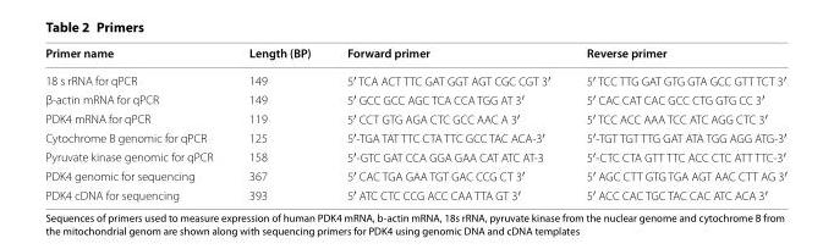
<table><thead><tr><td>Primer name</td><td>Length (BP)</td><td>Forward primer</td><td>Reverse primer</td></tr></thead><tbody><tr><td>18 s rRNA for qPCR</td><td>149</td><td>5′ TCA ACT TTC GAT GGT AGT CGC CGT 3′</td><td>5′ TCC TTG GAT GTG GTA GCC GTT TCT 3′</td></tr><tr><td>β-actin mRNA for qPCR</td><td>149</td><td>5′ GCC GCC AGC TCA CCA TGG AT 3′</td><td>5′ CAC CAT CAC GCC CTG GTG CC 3′</td></tr><tr><td>PDK4 mRNA for qPCR</td><td>119</td><td>5′ CCT GTG AGA CTC GCC AAC A 3′</td><td>5′ TCC ACC AAA TCC ATC AGG CTC 3′</td></tr><tr><td>Cytochrome B genomic for qPCR</td><td>125</td><td>5′-TGA TAT TTC CTA TTC GCC TAC ACA-3′</td><td>5′-TGT TGT TTG GAT ATA TGG AGG ATG-3′</td></tr><tr><td>Pyruvate kinase genomic for qPCR</td><td>158</td><td>5′-GTC GAT CCA GGA GAA CAT ATC AT-3</td><td>5′-CTC CTA GTT TTC ACC CTC ATT TTC-3′</td></tr><tr><td>PDK4 genomic for sequencing</td><td>367</td><td>5′ CAC TGA GAA TGT GAC CCG CT 3′</td><td>5′ AGC CTT GTG TGA AGT AAC CTT AG 3′</td></tr><tr><td>PDK4 cDNA for sequencing</td><td>393</td><td>5′ ATC CTC CCG ACC CAA TTA GT 3′</td><td>5′ ACC CAC TGC TAC CAC ATC ACA 3′</td></tr></tbody></table>